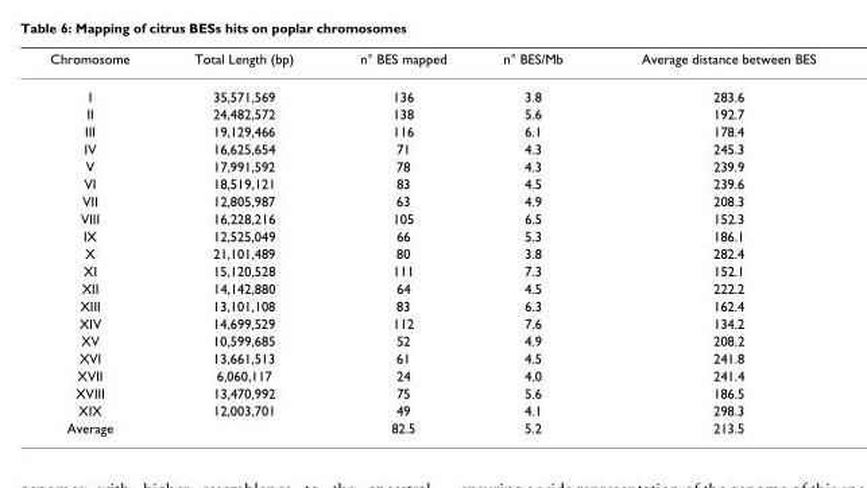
<table><thead><tr><td>Chromosome</td><td>Total Length (bp)</td><td>n° BES mapped</td><td>n° BES/Mb</td><td>Average distance between BES</td></tr></thead><tbody><tr><td>I</td><td>35,571,569</td><td>136</td><td>3.8</td><td>283.6</td></tr><tr><td>II</td><td>24,482,572</td><td>138</td><td>5.6</td><td>192.7</td></tr><tr><td>III</td><td>19,129,466</td><td>116</td><td>6.1</td><td>178.4</td></tr><tr><td>IV</td><td>16,625,654</td><td>71</td><td>4.3</td><td>245.3</td></tr><tr><td>V</td><td>17,991,592</td><td>78</td><td>4.3</td><td>239.9</td></tr><tr><td>VI</td><td>18,519,121</td><td>83</td><td>4.5</td><td>239.6</td></tr><tr><td>VII</td><td>12,805,987</td><td>63</td><td>4.9</td><td>208.3</td></tr><tr><td>VIII</td><td>16,228,216</td><td>105</td><td>6.5</td><td>152.3</td></tr><tr><td>IX</td><td>12,525,049</td><td>66</td><td>5.3</td><td>186.1</td></tr><tr><td>X</td><td>21,101,489</td><td>80</td><td>3.8</td><td>282.4</td></tr><tr><td>XI</td><td>15,120,528</td><td>111</td><td>7.3</td><td>152.1</td></tr><tr><td>XII</td><td>14,142,880</td><td>64</td><td>4.5</td><td>222.2</td></tr><tr><td>XIII</td><td>13,101,108</td><td>83</td><td>6.3</td><td>162.4</td></tr><tr><td>XIV</td><td>14,699,529</td><td>112</td><td>7.6</td><td>134.2</td></tr><tr><td>XV</td><td>10,599,685</td><td>52</td><td>4.9</td><td>208.2</td></tr><tr><td>XVI</td><td>13,661,513</td><td>61</td><td>4.5</td><td>241.8</td></tr><tr><td>XVII</td><td>6,060,117</td><td>24</td><td>4.0</td><td>241.4</td></tr><tr><td>XVIII</td><td>13,470,992</td><td>75</td><td>5.6</td><td>186.5</td></tr><tr><td>XIX</td><td>12,003,701</td><td>49</td><td>4.1</td><td>298.3</td></tr><tr><td>Average</td><td></td><td>82.5</td><td>5.2</td><td>213.5</td></tr></tbody></table>